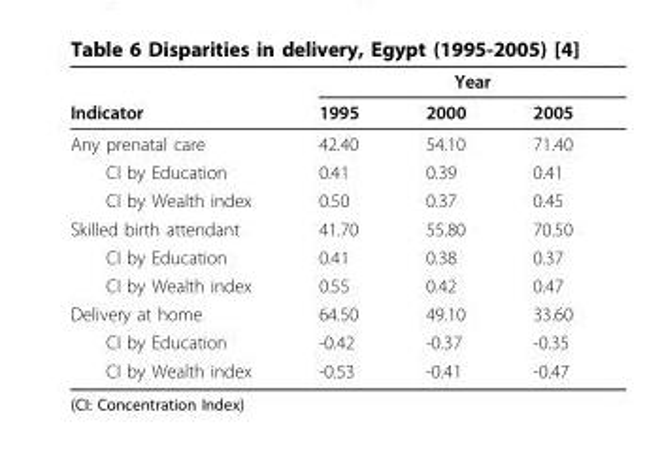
<table><thead><tr><td rowspan="2">Indicator</td><td colspan="3">Year</td></tr><tr><td>1995</td><td>2000</td><td>2005</td></tr></thead><tbody><tr><td>Any prenatal care</td><td>42.40</td><td>54.10</td><td>71.40</td></tr><tr><td>CI by Education</td><td>0.41</td><td>0.39</td><td>0.41</td></tr><tr><td>CI by Wealth index</td><td>0.50</td><td>0.37</td><td>0.45</td></tr><tr><td>Skilled birth attendant</td><td>41.70</td><td>55.80</td><td>70.50</td></tr><tr><td>CI by Education</td><td>0.41</td><td>0.38</td><td>0.37</td></tr><tr><td>CI by Wealth index</td><td>0.55</td><td>0.42</td><td>0.47</td></tr><tr><td>Delivery at home</td><td>64.50</td><td>49.10</td><td>33.60</td></tr><tr><td>CI by Education</td><td>-0.42</td><td>-0.37</td><td>-0.35</td></tr><tr><td>CI by Wealth index</td><td>-0.53</td><td>-0.41</td><td>-0.47</td></tr></tbody></table>